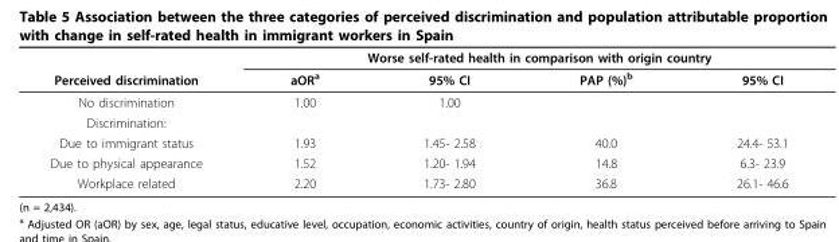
<table><thead><tr><td rowspan="2">Perceived discrimination</td><td colspan="4">Worse self-rated health in comparison with origin country</td></tr><tr><td>aOR<sup>a</sup></td><td>95% CI</td><td>PAP (%)<sup>b</sup></td><td>95% CI</td></tr></thead><tbody><tr><td>No discrimination</td><td>1.00</td><td>1.00</td><td></td><td></td></tr><tr><td colspan="5">Discrimination:</td></tr><tr><td>Due to immigrant status</td><td>1.93</td><td>1.45- 2.58</td><td>40.0</td><td>24.4- 53.1</td></tr><tr><td>Due to physical appearance</td><td>1.52</td><td>1.20- 1.94</td><td>14.8</td><td>6.3- 23.9</td></tr><tr><td>Workplace related</td><td>2.20</td><td>1.73- 2.80</td><td>36.8</td><td>26.1- 46.6</td></tr></tbody></table>